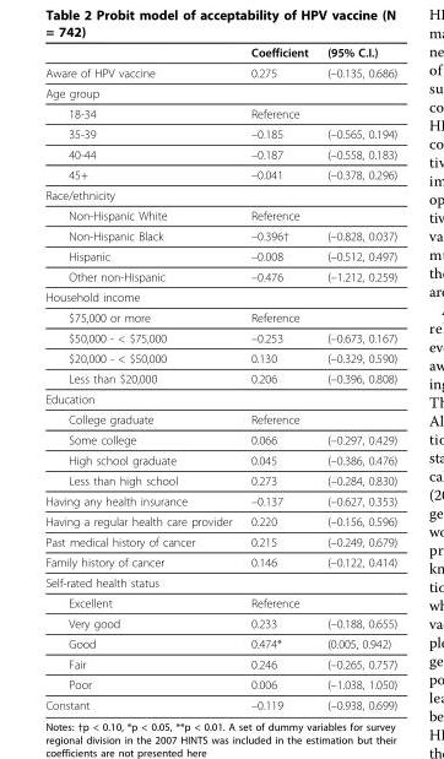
<table><thead><tr><td></td><td>Coefficient</td><td>(95% C.I.)</td></tr></thead><tbody><tr><td>Aware of HPV vaccine</td><td>0.275</td><td>(–0.135, 0.686)</td></tr><tr><td colspan="3">Age group</td></tr><tr><td>18-34</td><td>Reference</td><td></td></tr><tr><td>35-39</td><td>–0.185</td><td>(–0.565, 0.194)</td></tr><tr><td>40-44</td><td>–0.187</td><td>(–0.558, 0.183)</td></tr><tr><td>45+</td><td>–0.041</td><td>(–0.378, 0.296)</td></tr><tr><td colspan="3">Race/ethnicity</td></tr><tr><td>Non-Hispanic White</td><td>Reference</td><td></td></tr><tr><td>Non-Hispanic Black</td><td>–0.396†</td><td>(–0.828, 0.037)</td></tr><tr><td>Hispanic</td><td>–0.008</td><td>(–0.512, 0.497)</td></tr><tr><td>Other non-Hispanic</td><td>–0.476</td><td>(–1.212, 0.259)</td></tr><tr><td colspan="3">Household income</td></tr><tr><td>$75,000 or more</td><td>Reference</td><td></td></tr><tr><td>$50,000 - &lt; $75,000</td><td>–0.253</td><td>(–0.673, 0.167)</td></tr><tr><td>$20,000 - &lt; $50,000</td><td>0.130</td><td>(–0.329, 0.590)</td></tr><tr><td>Less than $20,000</td><td>0.206</td><td>(–0.396, 0.808)</td></tr><tr><td colspan="3">Education</td></tr><tr><td>College graduate</td><td>Reference</td><td></td></tr><tr><td>Some college</td><td>0.066</td><td>(–0.297, 0.429)</td></tr><tr><td>High school graduate</td><td>0.045</td><td>(–0.386, 0.476)</td></tr><tr><td>Less than high school</td><td>0.273</td><td>(–0.284, 0.830)</td></tr><tr><td>Having any health insurance</td><td>–0.137</td><td>(–0.627, 0.353)</td></tr><tr><td>Having a regular health care provider</td><td>0.220</td><td>(–0.156, 0.596)</td></tr><tr><td>Past medical history of cancer</td><td>0.215</td><td>(–0.249, 0.679)</td></tr><tr><td>Family history of cancer</td><td>0.146</td><td>(–0.122, 0.414)</td></tr><tr><td colspan="3">Self-rated health status</td></tr><tr><td>Excellent</td><td>Reference</td><td></td></tr><tr><td>Very good</td><td>0.233</td><td>(–0.188, 0.655)</td></tr><tr><td>Good</td><td>0.474*</td><td>(0.005, 0.942)</td></tr><tr><td>Fair</td><td>0.246</td><td>(–0.265, 0.757)</td></tr><tr><td>Poor</td><td>0.006</td><td>(–1.038, 1.050)</td></tr><tr><td>Constant</td><td>–0.119</td><td>(–0.938, 0.699)</td></tr></tbody></table>